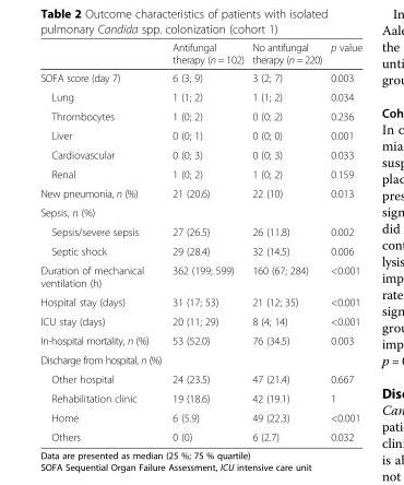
<table><thead><tr><td></td><td>Antifungal therapy (n = 102)</td><td>No antifungal therapy (n = 220)</td><td>p value</td></tr></thead><tbody><tr><td>SOFA score (day 7)</td><td>6 (3; 9)</td><td>3 (2; 7)</td><td>0.003</td></tr><tr><td>Lung</td><td>1 (1; 2)</td><td>1 (1; 2)</td><td>0.034</td></tr><tr><td>Thrombocytes</td><td>1 (0; 2)</td><td>0 (0; 2)</td><td>0.236</td></tr><tr><td>Liver</td><td>0 (0; 1)</td><td>0 (0; 0)</td><td>0.001</td></tr><tr><td>Cardiovascular</td><td>0 (0; 3)</td><td>0 (0; 3)</td><td>0.033</td></tr><tr><td>Renal</td><td>1 (0; 2)</td><td>1 (0; 2)</td><td>0.159</td></tr><tr><td>New pneumonia, n (%)</td><td>21 (20.6)</td><td>22 (10)</td><td>0.013</td></tr><tr><td colspan="4">Sepsis, n (%)</td></tr><tr><td>Sepsis/severe sepsis</td><td>27 (26.5)</td><td>26 (11.8)</td><td>0.002</td></tr><tr><td>Septic shock</td><td>29 (28.4)</td><td>32 (14.5)</td><td>0.006</td></tr><tr><td>Duration of mechanical ventilation (h)</td><td>362 (199; 599)</td><td>160 (67; 284)</td><td>&lt;0.001</td></tr><tr><td>Hospital stay (days)</td><td>31 (17; 53)</td><td>21 (12; 35)</td><td>&lt;0.001</td></tr><tr><td>ICU stay (days)</td><td>20 (11; 29)</td><td>8 (4; 14)</td><td>&lt;0.001</td></tr><tr><td>In-hospital mortality, n (%)</td><td>53 (52.0)</td><td>76 (34.5)</td><td>0.003</td></tr><tr><td colspan="4">Discharge from hospital, n (%)</td></tr><tr><td>Other hospital</td><td>24 (23.5)</td><td>47 (21.4)</td><td>0.667</td></tr><tr><td>Rehabilitation clinic</td><td>19 (18.6)</td><td>42 (19.1)</td><td>1</td></tr><tr><td>Home</td><td>6 (5.9)</td><td>49 (22.3)</td><td>&lt;0.001</td></tr><tr><td>Others</td><td>0 (0)</td><td>6 (2.7)</td><td>0.032</td></tr></tbody></table>